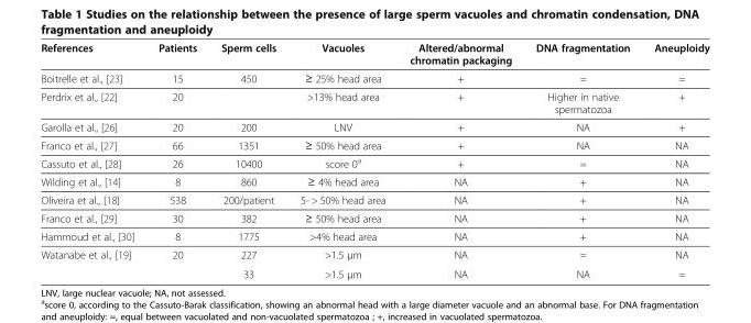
<table><thead><tr><td>References</td><td>Patients</td><td>Sperm cells</td><td>Vacuoles</td><td>Altered/abnormal chromatin packaging</td><td>DNA fragmentation</td><td>Aneuploidy</td></tr></thead><tbody><tr><td>Boitrelle et al., [23]</td><td>15</td><td>450</td><td>≥ 25% head area</td><td>+</td><td>=</td><td>=</td></tr><tr><td>Perdrix et al., [22]</td><td>20</td><td></td><td>&gt;13% head area</td><td>+</td><td>Higher in native spermatozoa</td><td>+</td></tr><tr><td>Garolla et al., [26]</td><td>20</td><td>200</td><td>LNV</td><td>+</td><td>NA</td><td>+</td></tr><tr><td>Franco et al., [27]</td><td>66</td><td>1351</td><td>≥ 50% head area</td><td>+</td><td>NA</td><td>NA</td></tr><tr><td>Cassuto et al., [28]</td><td>26</td><td>10400</td><td>score 0<sup>a</sup></td><td>+</td><td>=</td><td>NA</td></tr><tr><td>Wilding et al., [14]</td><td>8</td><td>860</td><td>≥ 4% head area</td><td>NA</td><td>+</td><td>NA</td></tr><tr><td>Oliveira et al., [18]</td><td>538</td><td>200/patient</td><td>5- &gt; 50% head area</td><td>NA</td><td>+</td><td>NA</td></tr><tr><td>Franco et al., [29]</td><td>30</td><td>382</td><td>≥ 50% head area</td><td>NA</td><td>+</td><td>NA</td></tr><tr><td>Hammoud et al., [30]</td><td>8</td><td>1775</td><td>&gt;4% head area</td><td>NA</td><td>+</td><td>NA</td></tr><tr><td rowspan="2">Watanabe et al., [19]</td><td>20</td><td>227</td><td>&gt;1.5 μm</td><td>NA</td><td>=</td><td>NA</td></tr><tr><td></td><td>33</td><td>&gt;1.5 μm</td><td>NA</td><td>NA</td><td>=</td></tr></tbody></table>